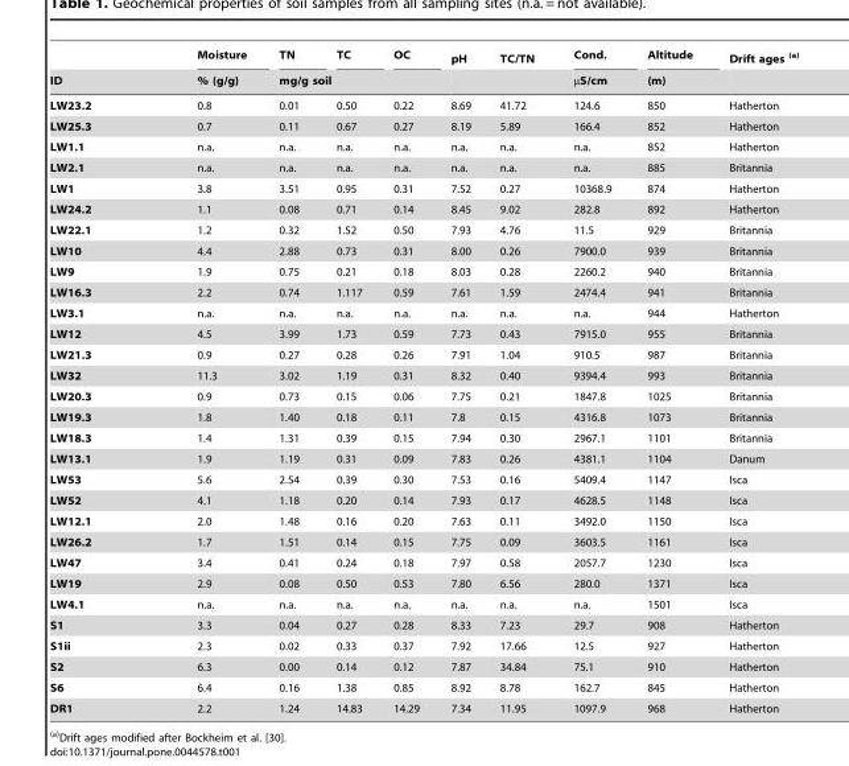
<table><thead><tr><td rowspan="2">ID</td><td rowspan="2">Moisture % (g/g)</td><td>TN</td><td>TC</td><td>OC</td><td rowspan="2">pH</td><td rowspan="2">TC/TN</td><td rowspan="2">Cond. µS/cm</td><td rowspan="2">Altitude (m)</td><td rowspan="2">Drift ages (a)</td></tr><tr><td colspan="3">mg/g soil</td></tr></thead><tbody><tr><td>LW23.2</td><td>0.8</td><td>0.01</td><td>0.50</td><td>0.22</td><td>8.69</td><td>41.72</td><td>124.6</td><td>850</td><td>Hatherton</td></tr><tr><td>LW25.3</td><td>0.7</td><td>0.11</td><td>0.67</td><td>0.27</td><td>8.19</td><td>5.89</td><td>166.4</td><td>852</td><td>Hatherton</td></tr><tr><td>LW1.1</td><td>n.a.</td><td>n.a.</td><td>n.a.</td><td>n.a.</td><td>n.a.</td><td>n.a.</td><td>n.a.</td><td>852</td><td>Hatherton</td></tr><tr><td>LW2.1</td><td>n.a.</td><td>n.a.</td><td>n.a.</td><td>n.a.</td><td>n.a.</td><td>n.a.</td><td>n.a.</td><td>885</td><td>Britannia</td></tr><tr><td>LW1</td><td>3.8</td><td>3.51</td><td>0.95</td><td>0.31</td><td>7.52</td><td>0.27</td><td>10368.9</td><td>874</td><td>Hatherton</td></tr><tr><td>LW24.2</td><td>1.1</td><td>0.08</td><td>0.71</td><td>0.14</td><td>8.45</td><td>9.02</td><td>282.8</td><td>892</td><td>Hatherton</td></tr><tr><td>LW22.1</td><td>1.2</td><td>0.32</td><td>1.52</td><td>0.50</td><td>7.93</td><td>4.76</td><td>11.5</td><td>929</td><td>Britannia</td></tr><tr><td>LW10</td><td>4.4</td><td>2.88</td><td>0.73</td><td>0.31</td><td>8.00</td><td>0.26</td><td>7900.0</td><td>939</td><td>Britannia</td></tr><tr><td>LW9</td><td>1.9</td><td>0.75</td><td>0.21</td><td>0.18</td><td>8.03</td><td>0.28</td><td>2260.2</td><td>940</td><td>Britannia</td></tr><tr><td>LW16.3</td><td>2.2</td><td>0.74</td><td>1.117</td><td>0.59</td><td>7.61</td><td>1.59</td><td>2474.4</td><td>941</td><td>Britannia</td></tr><tr><td>LW3.1</td><td>n.a.</td><td>n.a.</td><td>n.a.</td><td>n.a.</td><td>n.a.</td><td>n.a.</td><td>n.a.</td><td>944</td><td>Hatherton</td></tr><tr><td>LW12</td><td>4.5</td><td>3.99</td><td>1.73</td><td>0.59</td><td>7.73</td><td>0.43</td><td>7915.0</td><td>955</td><td>Britannia</td></tr><tr><td>LW21.3</td><td>0.9</td><td>0.27</td><td>0.28</td><td>0.26</td><td>7.91</td><td>1.04</td><td>910.5</td><td>987</td><td>Britannia</td></tr><tr><td>LW32</td><td>11.3</td><td>3.02</td><td>1.19</td><td>0.31</td><td>8.32</td><td>0.40</td><td>9394.4</td><td>993</td><td>Britannia</td></tr><tr><td>LW20.3</td><td>0.9</td><td>0.73</td><td>0.15</td><td>0.06</td><td>7.75</td><td>0.21</td><td>1847.8</td><td>1025</td><td>Britannia</td></tr><tr><td>LW19.3</td><td>1.8</td><td>1.40</td><td>0.18</td><td>0.11</td><td>7.8</td><td>0.15</td><td>4316.8</td><td>1073</td><td>Britannia</td></tr><tr><td>LW18.3</td><td>1.4</td><td>1.31</td><td>0.39</td><td>0.15</td><td>7.94</td><td>0.30</td><td>2967.1</td><td>1101</td><td>Britannia</td></tr><tr><td>LW13.1</td><td>1.9</td><td>1.19</td><td>0.31</td><td>0.09</td><td>7.83</td><td>0.26</td><td>4381.1</td><td>1104</td><td>Danum</td></tr><tr><td>LW53</td><td>5.6</td><td>2.54</td><td>0.39</td><td>0.30</td><td>7.53</td><td>0.16</td><td>5409.4</td><td>1147</td><td>Isca</td></tr><tr><td>LW52</td><td>4.1</td><td>1.18</td><td>0.20</td><td>0.14</td><td>7.93</td><td>0.17</td><td>4628.5</td><td>1148</td><td>Isca</td></tr><tr><td>LW12.1</td><td>2.0</td><td>1.48</td><td>0.16</td><td>0.20</td><td>7.63</td><td>0.11</td><td>3492.0</td><td>1150</td><td>Isca</td></tr><tr><td>LW26.2</td><td>1.7</td><td>1.51</td><td>0.14</td><td>0.15</td><td>7.75</td><td>0.09</td><td>3603.5</td><td>1161</td><td>Isca</td></tr><tr><td>LW47</td><td>3.4</td><td>0.41</td><td>0.24</td><td>0.18</td><td>7.97</td><td>0.58</td><td>2057.7</td><td>1230</td><td>Isca</td></tr><tr><td>LW19</td><td>2.9</td><td>0.08</td><td>0.50</td><td>0.53</td><td>7.80</td><td>6.56</td><td>280.0</td><td>1371</td><td>Isca</td></tr><tr><td>LW4.1</td><td>n.a.</td><td>n.a.</td><td>n.a.</td><td>n.a.</td><td>n.a.</td><td>n.a.</td><td>n.a.</td><td>1501</td><td>Isca</td></tr><tr><td>S1</td><td>3.3</td><td>0.04</td><td>0.27</td><td>0.28</td><td>8.33</td><td>7.23</td><td>29.7</td><td>908</td><td>Hatherton</td></tr><tr><td>S1ii</td><td>2.3</td><td>0.02</td><td>0.33</td><td>0.37</td><td>7.92</td><td>17.66</td><td>12.5</td><td>927</td><td>Hatherton</td></tr><tr><td>S2</td><td>6.3</td><td>0.00</td><td>0.14</td><td>0.12</td><td>7.87</td><td>34.84</td><td>75.1</td><td>910</td><td>Hatherton</td></tr><tr><td>S6</td><td>6.4</td><td>0.16</td><td>1.38</td><td>0.85</td><td>8.92</td><td>8.78</td><td>162.7</td><td>845</td><td>Hatherton</td></tr><tr><td>DR1</td><td>2.2</td><td>1.24</td><td>14.83</td><td>14.29</td><td>7.34</td><td>11.95</td><td>1097.9</td><td>968</td><td>Hatherton</td></tr></tbody></table>